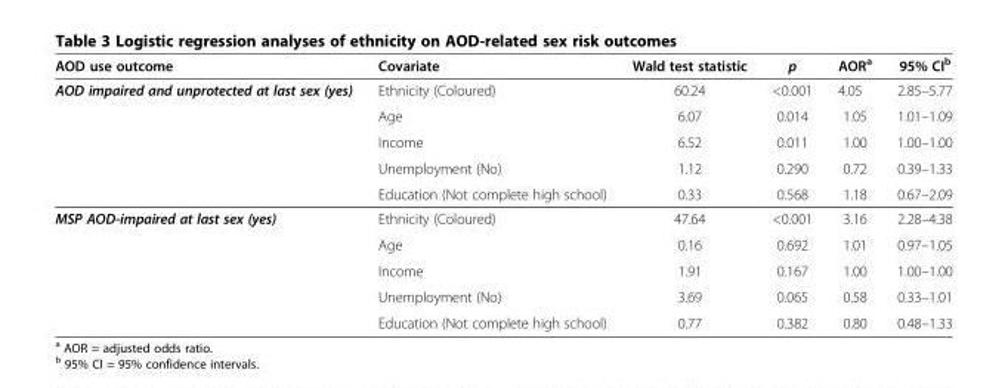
<table><thead><tr><td>AOD use outcome</td><td>Covariate</td><td>Wald test statistic</td><td>p</td><td>AOR<sup>a</sup></td><td>95% CI<sup>b</sup></td></tr></thead><tbody><tr><td rowspan="5">AOD impaired and unprotected at last sex (yes)</td><td>Ethnicity (Coloured)</td><td>60.24</td><td>&lt;0.001</td><td>4.05</td><td>2.85–5.77</td></tr><tr><td>Age</td><td>6.07</td><td>0.014</td><td>1.05</td><td>1.01–1.09</td></tr><tr><td>Income</td><td>6.52</td><td>0.011</td><td>1.00</td><td>1.00–1.00</td></tr><tr><td>Unemployment (No)</td><td>1.12</td><td>0.290</td><td>0.72</td><td>0.39–1.33</td></tr><tr><td>Education (Not complete high school)</td><td>0.33</td><td>0.568</td><td>1.18</td><td>0.67–2.09</td></tr><tr><td rowspan="5">MSP AOD-impaired at last sex (yes)</td><td>Ethnicity (Coloured)</td><td>47.64</td><td>&lt;0.001</td><td>3.16</td><td>2.28–4.38</td></tr><tr><td>Age</td><td>0.16</td><td>0.692</td><td>1.01</td><td>0.97–1.05</td></tr><tr><td>Income</td><td>1.91</td><td>0.167</td><td>1.00</td><td>1.00–1.00</td></tr><tr><td>Unemployment (No)</td><td>3.69</td><td>0.065</td><td>0.58</td><td>0.33–1.01</td></tr><tr><td>Education (Not complete high school)</td><td>0.77</td><td>0.382</td><td>0.80</td><td>0.48–1.33</td></tr></tbody></table>